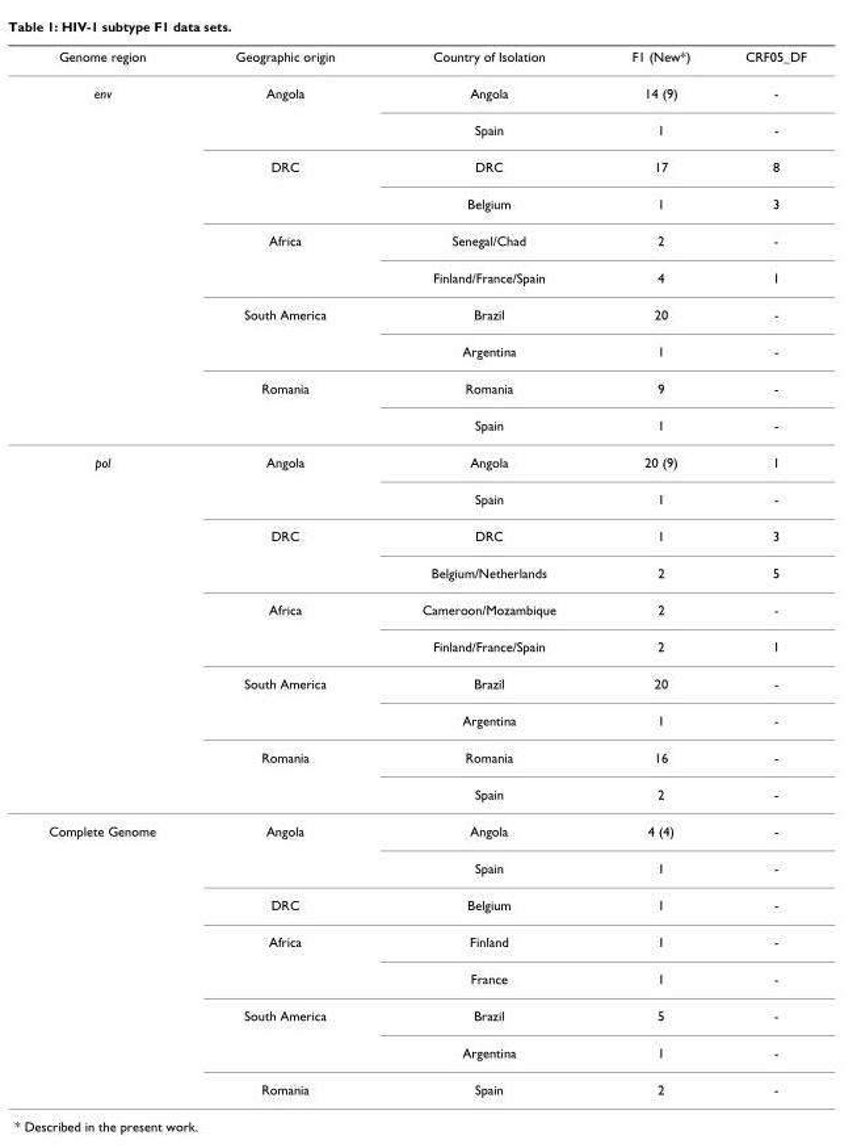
<table><thead><tr><td>Genome region</td><td>Geographic origin</td><td>Country of Isolation</td><td>F1 (New*)</td><td>CRF05_DF</td></tr></thead><tbody><tr><td rowspan="10">env</td><td>Angola</td><td>Angola</td><td>14 (9)</td><td>-</td></tr><tr><td></td><td>Spain</td><td>1</td><td>-</td></tr><tr><td>DRC</td><td>DRC</td><td>17</td><td>8</td></tr><tr><td></td><td>Belgium</td><td>1</td><td>3</td></tr><tr><td>Africa</td><td>Senegal/Chad</td><td>2</td><td>-</td></tr><tr><td></td><td>Finland/France/Spain</td><td>4</td><td>1</td></tr><tr><td>South America</td><td>Brazil</td><td>20</td><td>-</td></tr><tr><td></td><td>Argentina</td><td>1</td><td>-</td></tr><tr><td>Romania</td><td>Romania</td><td>9</td><td>-</td></tr><tr><td></td><td>Spain</td><td>1</td><td>-</td></tr><tr><td rowspan="10">pol</td><td>Angola</td><td>Angola</td><td>20 (9)</td><td>1</td></tr><tr><td></td><td>Spain</td><td>1</td><td>-</td></tr><tr><td>DRC</td><td>DRC</td><td>1</td><td>3</td></tr><tr><td></td><td>Belgium/Netherlands</td><td>2</td><td>5</td></tr><tr><td>Africa</td><td>Cameroon/Mozambique</td><td>2</td><td>-</td></tr><tr><td></td><td>Finland/France/Spain</td><td>2</td><td>1</td></tr><tr><td>South America</td><td>Brazil</td><td>20</td><td>-</td></tr><tr><td></td><td>Argentina</td><td>1</td><td>-</td></tr><tr><td>Romania</td><td>Romania</td><td>16</td><td>-</td></tr><tr><td></td><td>Spain</td><td>2</td><td>-</td></tr><tr><td rowspan="8">Complete Genome</td><td>Angola</td><td>Angola</td><td>4 (4)</td><td>-</td></tr><tr><td></td><td>Spain</td><td>1</td><td>-</td></tr><tr><td>DRC</td><td>Belgium</td><td>1</td><td>-</td></tr><tr><td>Africa</td><td>Finland</td><td>1</td><td>-</td></tr><tr><td></td><td>France</td><td>1</td><td>-</td></tr><tr><td>South America</td><td>Brazil</td><td>5</td><td>-</td></tr><tr><td></td><td>Argentina</td><td>1</td><td>-</td></tr><tr><td>Romania</td><td>Spain</td><td>2</td><td>-</td></tr></tbody></table>